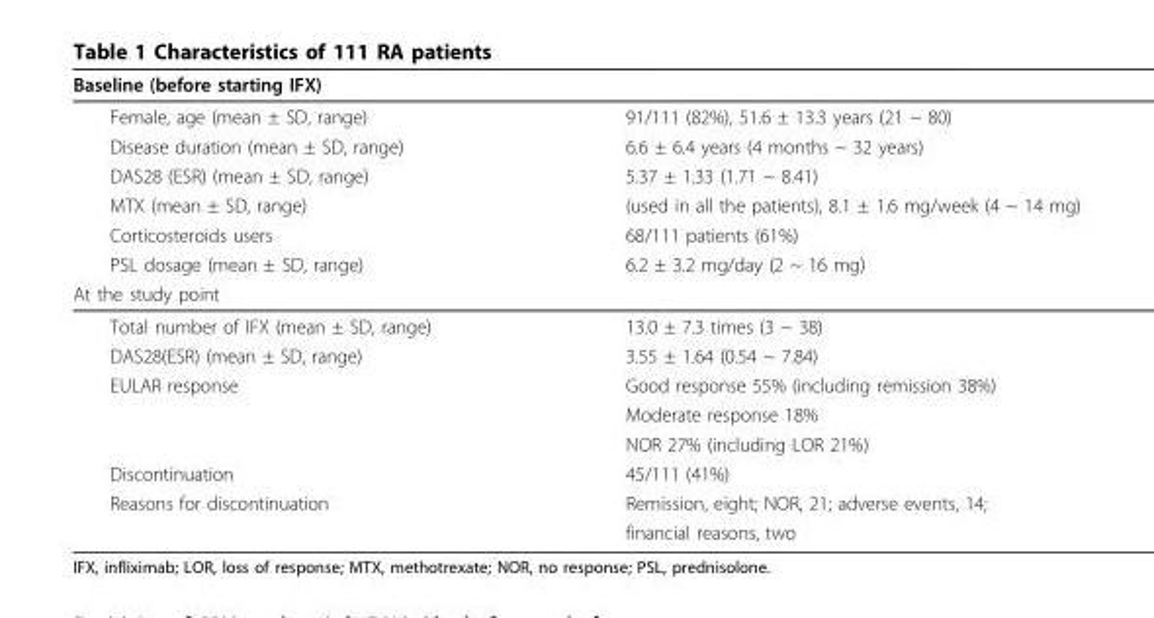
<table><thead><tr><td>Baseline (before starting IFX)</td><td></td></tr></thead><tbody><tr><td>Female, age (mean ± SD, range)</td><td>91/111 (82%), 51.6 ± 13.3 years (21 ~ 80)</td></tr><tr><td>Disease duration (mean ± SD, range)</td><td>6.6 ± 6.4 years (4 months ~ 32 years)</td></tr><tr><td>DAS28 (ESR) (mean ± SD, range)</td><td>5.37 ± 1.33 (1.71 ~ 8.41)</td></tr><tr><td>MTX (mean ± SD, range)</td><td>(used in all the patients), 8.1 ± 1.6 mg/week (4 ~ 14 mg)</td></tr><tr><td>Corticosteroids users</td><td>68/111 patients (61%)</td></tr><tr><td>PSL dosage (mean ± SD, range)</td><td>6.2 ± 3.2 mg/day (2 ~ 16 mg)</td></tr><tr><td colspan="2">At the study point</td></tr><tr><td>Total number of IFX (mean ± SD, range)</td><td>13.0 ± 7.3 times (3 ~ 38)</td></tr><tr><td>DAS28(ESR) (mean ± SD, range)</td><td>3.55 ± 1.64 (0.54 ~ 7.84)</td></tr><tr><td rowspan="3">EULAR response</td><td>Good response 55% (including remission 38%)</td></tr><tr><td>Moderate response 18%</td></tr><tr><td>NOR 27% (including LOR 21%)</td></tr><tr><td>Discontinuation</td><td>45/111 (41%)</td></tr><tr><td rowspan="2">Reasons for discontinuation</td><td>Remission, eight; NOR, 21; adverse events, 14;</td></tr><tr><td>financial reasons, two</td></tr></tbody></table>